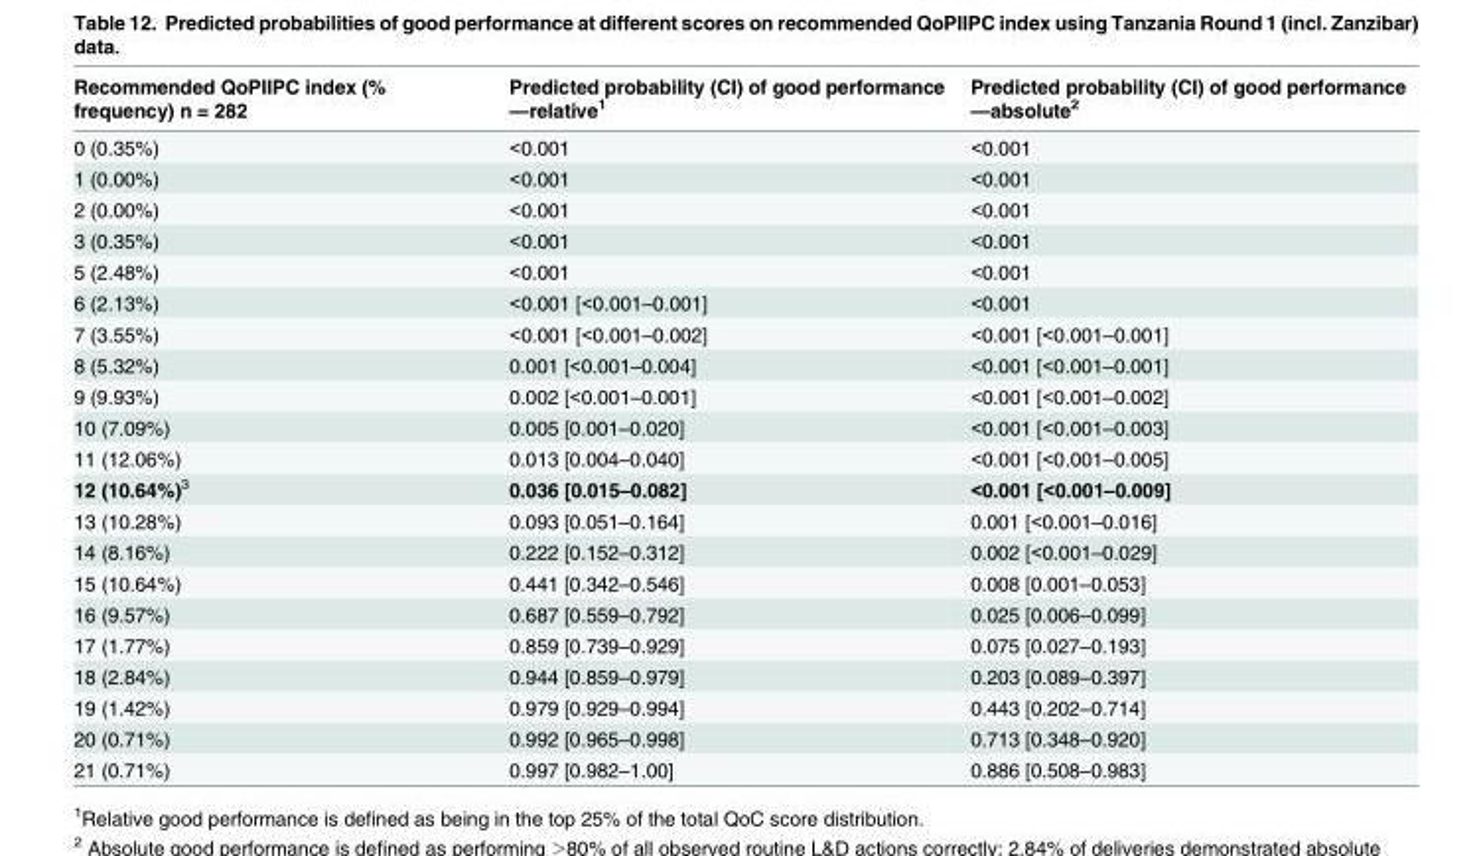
<table><thead><tr><td>Recommended QoPIIPC index (% frequency) n = 282</td><td>Predicted probability (CI) of good performance —relative<sup>1</sup></td><td>Predicted probability (CI) of good performance —absolute<sup>2</sup></td></tr></thead><tbody><tr><td>0 (0.35%)</td><td>&lt;0.001</td><td>&lt;0.001</td></tr><tr><td>1 (0.00%)</td><td>&lt;0.001</td><td>&lt;0.001</td></tr><tr><td>2 (0.00%)</td><td>&lt;0.001</td><td>&lt;0.001</td></tr><tr><td>3 (0.35%)</td><td>&lt;0.001</td><td>&lt;0.001</td></tr><tr><td>5 (2.48%)</td><td>&lt;0.001</td><td>&lt;0.001</td></tr><tr><td>6 (2.13%)</td><td>&lt;0.001 [&lt;0.001–0.001]</td><td>&lt;0.001</td></tr><tr><td>7 (3.55%)</td><td>&lt;0.001 [&lt;0.001–0.002]</td><td>&lt;0.001 [&lt;0.001–0.001]</td></tr><tr><td>8 (5.32%)</td><td>0.001 [&lt;0.001–0.004]</td><td>&lt;0.001 [&lt;0.001–0.001]</td></tr><tr><td>9 (9.93%)</td><td>0.002 [&lt;0.001–0.001]</td><td>&lt;0.001 [&lt;0.001–0.002]</td></tr><tr><td>10 (7.09%)</td><td>0.005 [0.001–0.020]</td><td>&lt;0.001 [&lt;0.001–0.003]</td></tr><tr><td>11 (12.06%)</td><td>0.013 [0.004–0.040]</td><td>&lt;0.001 [&lt;0.001–0.005]</td></tr><tr><td>12 (10.64%)<sup>3</sup></td><td>0.036 [0.015–0.082]</td><td>&lt;0.001 [&lt;0.001–0.009]</td></tr><tr><td>13 (10.28%)</td><td>0.093 [0.051–0.164]</td><td>0.001 [&lt;0.001–0.016]</td></tr><tr><td>14 (8.16%)</td><td>0.222 [0.152–0.312]</td><td>0.002 [&lt;0.001–0.029]</td></tr><tr><td>15 (10.64%)</td><td>0.441 [0.342–0.546]</td><td>0.008 [0.001–0.053]</td></tr><tr><td>16 (9.57%)</td><td>0.687 [0.559–0.792]</td><td>0.025 [0.006–0.099]</td></tr><tr><td>17 (1.77%)</td><td>0.859 [0.739–0.929]</td><td>0.075 [0.027–0.193]</td></tr><tr><td>18 (2.84%)</td><td>0.944 [0.859–0.979]</td><td>0.203 [0.089–0.397]</td></tr><tr><td>19 (1.42%)</td><td>0.979 [0.929–0.994]</td><td>0.443 [0.202–0.714]</td></tr><tr><td>20 (0.71%)</td><td>0.992 [0.965–0.998]</td><td>0.713 [0.348–0.920]</td></tr><tr><td>21 (0.71%)</td><td>0.997 [0.982–1.00]</td><td>0.886 [0.508–0.983]</td></tr></tbody></table>